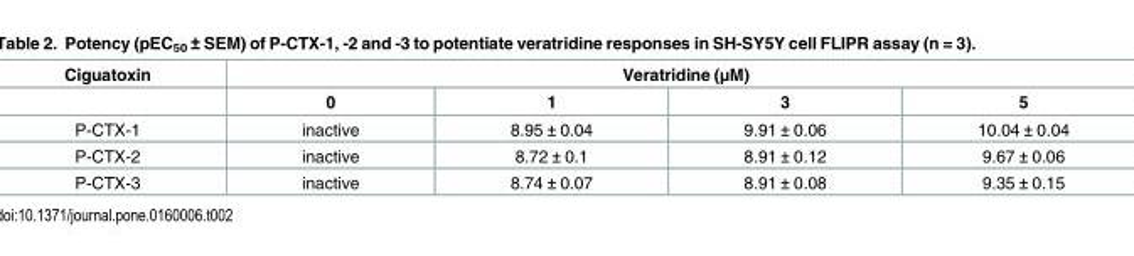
<table><thead><tr><td rowspan="2">Ciguatoxin</td><td colspan="4">Veratridine (μM)</td></tr><tr><td>0</td><td>1</td><td>3</td><td>5</td></tr></thead><tbody><tr><td>P-CTX-1</td><td>inactive</td><td>8.95 ± 0.04</td><td>9.91 ± 0.06</td><td>10.04 ± 0.04</td></tr><tr><td>P-CTX-2</td><td>inactive</td><td>8.72 ± 0.1</td><td>8.91 ± 0.12</td><td>9.67 ± 0.06</td></tr><tr><td>P-CTX-3</td><td>inactive</td><td>8.74 ± 0.07</td><td>8.91 ± 0.08</td><td>9.35 ± 0.15</td></tr></tbody></table>